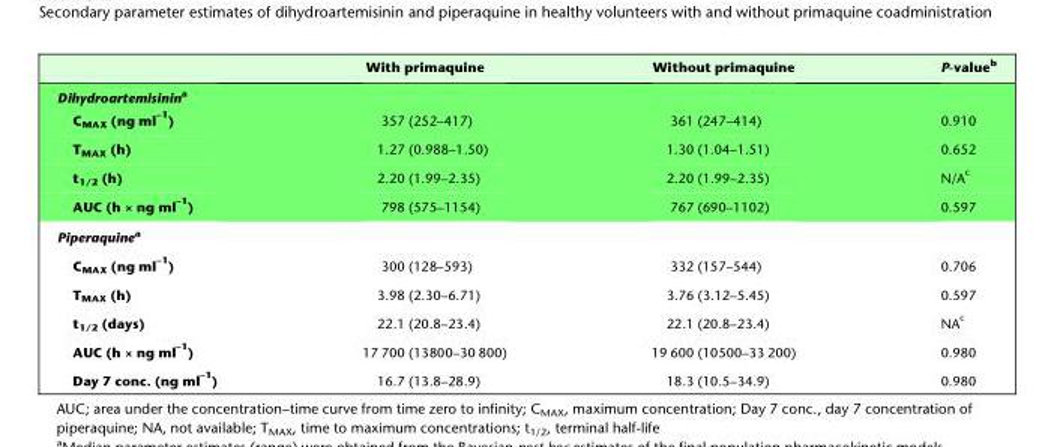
<table><thead><tr><td></td><td>With primaquine</td><td>Without primaquine</td><td>P-value<sup>b</sup></td></tr></thead><tbody><tr><td colspan="4">Dihydroartemisinina</td></tr><tr><td>C<sub>MAX</sub> (ng ml <sup>–1</sup>)</td><td>357 (252–417)</td><td>361 (247–414)</td><td>0.910</td></tr><tr><td>T<sub>MAX</sub> (h)</td><td>1.27 (0.988–1.50)</td><td>1.30 (1.04–1.51)</td><td>0.652</td></tr><tr><td>t<sub>1/2</sub> (h)</td><td>2.20 (1.99–2.35)</td><td>2.20 (1.99–2.35)</td><td>N/A <sup>c</sup></td></tr><tr><td>AUC (h × ng ml <sup>–1</sup>)</td><td>798 (575–1154)</td><td>767 (690–1102)</td><td>0.597</td></tr><tr><td colspan="4">Piperaquinea</td></tr><tr><td>C<sub>MAX</sub> (ng ml <sup>–1</sup>)</td><td>300 (128–593)</td><td>332 (157–544)</td><td>0.706</td></tr><tr><td>T<sub>MAX</sub> (h)</td><td>3.98 (2.30–6.71)</td><td>3.76 (3.12–5.45)</td><td>0.597</td></tr><tr><td>t<sub>1/2</sub> (days)</td><td>22.1 (20.8–23.4)</td><td>22.1 (20.8–23.4)</td><td>NA <sup>c</sup></td></tr><tr><td>AUC (h × ng ml <sup>–1</sup>)</td><td>17 700 (13800–30 800)</td><td>19 600 (10500–33 200)</td><td>0.980</td></tr><tr><td>Day 7 conc. (ng ml <sup>–1</sup>)</td><td>16.7 (13.8–28.9)</td><td>18.3 (10.5–34.9)</td><td>0.980</td></tr></tbody></table>